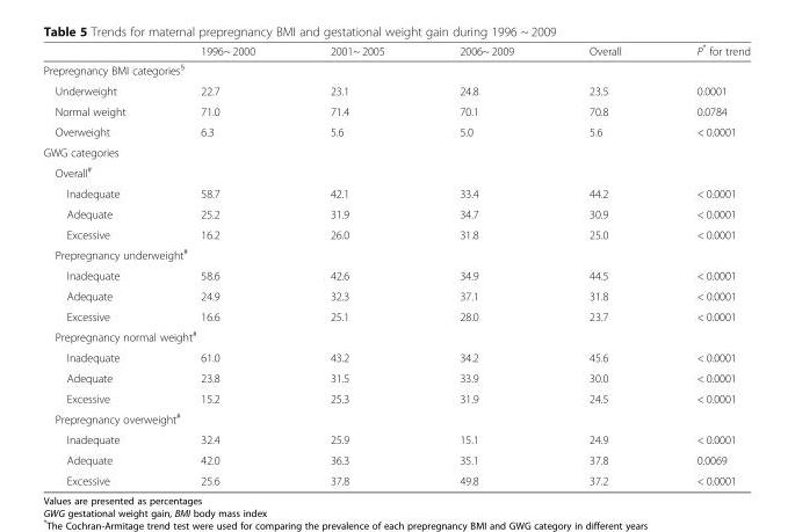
<table><thead><tr><td></td><td>1996~ 2000</td><td>2001~ 2005</td><td>2006~ 2009</td><td>Overall</td><td>P* for trend</td></tr></thead><tbody><tr><td colspan="6">Prepregnancy BMI categories<sup>§</sup></td></tr><tr><td>Underweight</td><td>22.7</td><td>23.1</td><td>24.8</td><td>23.5</td><td>0.0001</td></tr><tr><td>Normal weight</td><td>71.0</td><td>71.4</td><td>70.1</td><td>70.8</td><td>0.0784</td></tr><tr><td>Overweight</td><td>6.3</td><td>5.6</td><td>5.0</td><td>5.6</td><td>&lt; 0.0001</td></tr><tr><td colspan="6">GWG categories</td></tr><tr><td colspan="6">Overall<sup>#</sup></td></tr><tr><td>Inadequate</td><td>58.7</td><td>42.1</td><td>33.4</td><td>44.2</td><td>&lt; 0.0001</td></tr><tr><td>Adequate</td><td>25.2</td><td>31.9</td><td>34.7</td><td>30.9</td><td>&lt; 0.0001</td></tr><tr><td>Excessive</td><td>16.2</td><td>26.0</td><td>31.8</td><td>25.0</td><td>&lt; 0.0001</td></tr><tr><td colspan="6">Prepregnancy underweight<sup>#</sup></td></tr><tr><td>Inadequate</td><td>58.6</td><td>42.6</td><td>34.9</td><td>44.5</td><td>&lt; 0.0001</td></tr><tr><td>Adequate</td><td>24.9</td><td>32.3</td><td>37.1</td><td>31.8</td><td>&lt; 0.0001</td></tr><tr><td>Excessive</td><td>16.6</td><td>25.1</td><td>28.0</td><td>23.7</td><td>&lt; 0.0001</td></tr><tr><td colspan="6">Prepregnancy normal weight<sup>#</sup></td></tr><tr><td>Inadequate</td><td>61.0</td><td>43.2</td><td>34.2</td><td>45.6</td><td>&lt; 0.0001</td></tr><tr><td>Adequate</td><td>23.8</td><td>31.5</td><td>33.9</td><td>30.0</td><td>&lt; 0.0001</td></tr><tr><td>Excessive</td><td>15.2</td><td>25.3</td><td>31.9</td><td>24.5</td><td>&lt; 0.0001</td></tr><tr><td colspan="6">Prepregnancy overweight<sup>#</sup></td></tr><tr><td>Inadequate</td><td>32.4</td><td>25.9</td><td>15.1</td><td>24.9</td><td>&lt; 0.0001</td></tr><tr><td>Adequate</td><td>42.0</td><td>36.3</td><td>35.1</td><td>37.8</td><td>0.0069</td></tr><tr><td>Excessive</td><td>25.6</td><td>37.8</td><td>49.8</td><td>37.2</td><td>&lt; 0.0001</td></tr></tbody></table>